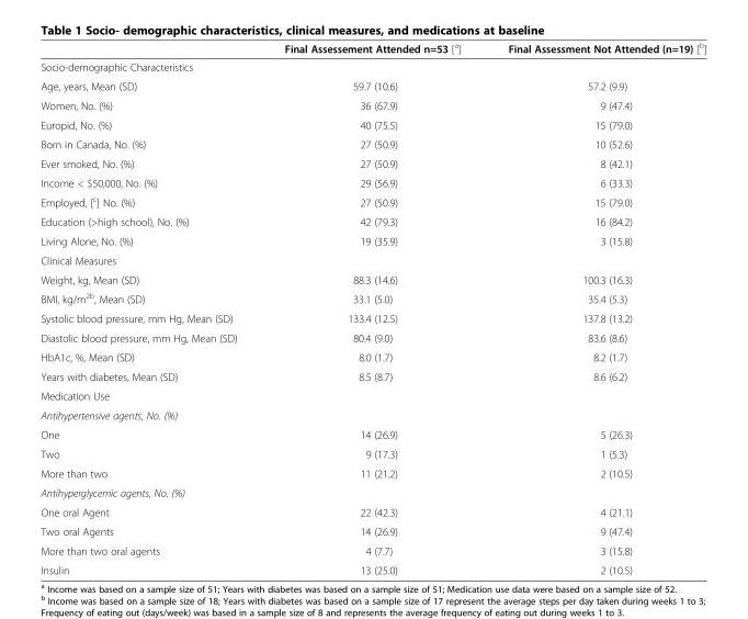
<table><thead><tr><td></td><td>Final Assessement Attended n=53 [<sup>a</sup>]</td><td>Final Assessment Not Attended (n=19) [<sup>b</sup>]</td></tr></thead><tbody><tr><td colspan="3">Socio-demographic Characteristics</td></tr><tr><td>Age, years, Mean (SD)</td><td>59.7 (10.6)</td><td>57.2 (9.9)</td></tr><tr><td>Women, No. (%)</td><td>36 (67.9)</td><td>9 (47.4)</td></tr><tr><td>Europid, No. (%)</td><td>40 (75.5)</td><td>15 (79.0)</td></tr><tr><td>Born in Canada, No. (%)</td><td>27 (50.9)</td><td>10 (52.6)</td></tr><tr><td>Ever smoked, No. (%)</td><td>27 (50.9)</td><td>8 (42.1)</td></tr><tr><td>Income &lt; $50,000, No. (%)</td><td>29 (56.9)</td><td>6 (33.3)</td></tr><tr><td>Employed, [<sup>c</sup>] No. (%)</td><td>27 (50.9)</td><td>15 (79.0)</td></tr><tr><td>Education (&gt;high school), No. (%)</td><td>42 (79.3)</td><td>16 (84.2)</td></tr><tr><td>Living Alone, No. (%)</td><td>19 (35.9)</td><td>3 (15.8)</td></tr><tr><td colspan="3">Clinical Measures</td></tr><tr><td>Weight, kg, Mean (SD)</td><td>88.3 (14.6)</td><td>100.3 (16.3)</td></tr><tr><td>BMI, kg/m<sup>2b</sup>, Mean (SD)</td><td>33.1 (5.0)</td><td>35.4 (5.3)</td></tr><tr><td>Systolic blood pressure, mm Hg, Mean (SD)</td><td>133.4 (12.5)</td><td>137.8 (13.2)</td></tr><tr><td>Diastolic blood pressure, mm Hg, Mean (SD)</td><td>80.4 (9.0)</td><td>83.6 (8.6)</td></tr><tr><td>HbA1c, %, Mean (SD)</td><td>8.0 (1.7)</td><td>8.2 (1.7)</td></tr><tr><td>Years with diabetes, Mean (SD)</td><td>8.5 (8.7)</td><td>8.6 (6.2)</td></tr><tr><td colspan="3">Medication Use</td></tr><tr><td colspan="3">Antihypertensive agents, No. (%)</td></tr><tr><td>One</td><td>14 (26.9)</td><td>5 (26.3)</td></tr><tr><td>Two</td><td>9 (17.3)</td><td>1 (5.3)</td></tr><tr><td>More than two</td><td>11 (21.2)</td><td>2 (10.5)</td></tr><tr><td colspan="3">Antihyperglycemic agents, No. (%)</td></tr><tr><td>One oral Agent</td><td>22 (42.3)</td><td>4 (21.1)</td></tr><tr><td>Two oral Agents</td><td>14 (26.9)</td><td>9 (47.4)</td></tr><tr><td>More than two oral agents</td><td>4 (7.7)</td><td>3 (15.8)</td></tr><tr><td>Insulin</td><td>13 (25.0)</td><td>2 (10.5)</td></tr></tbody></table>